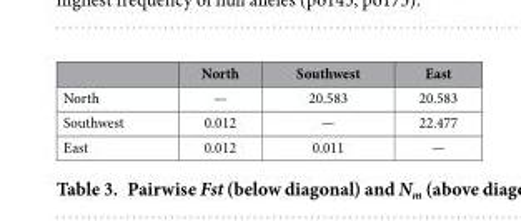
<table><thead><tr><td></td><td>North</td><td>Southwest</td><td>East</td></tr></thead><tbody><tr><td>North</td><td>—</td><td>20.583</td><td>20.583</td></tr><tr><td>Southwest</td><td>0.012</td><td>—</td><td>22.477</td></tr><tr><td>East</td><td>0.012</td><td>0.011</td><td>—</td></tr></tbody></table>